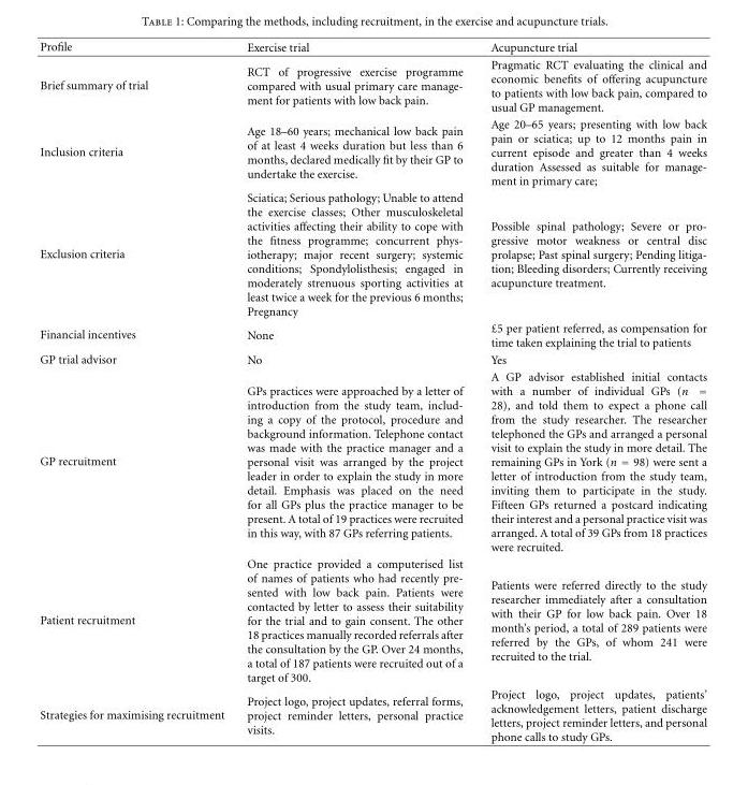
<table><thead><tr><td>Profile</td><td>Exercise trial</td><td>Acupuncture trial</td></tr></thead><tbody><tr><td>Brief summary of trial</td><td>RCT of progressive exercise programme compared with usual primary care manage- ment for patients with low back pain.</td><td>Pragmatic RCT evaluating the clinical and economic benefits of offering acupuncture to patients with low back pain, compared to usual GP management.</td></tr><tr><td>Inclusion criteria</td><td>Age 18–60 years; mechanical low back pain of at least 4 weeks duration but less than 6 months, declared medically fit by their GP to undertake the exercise.</td><td>Age 20–65 years; presenting with low back pain or sciatica; up to 12 months pain in current episode and greater than 4 weeks duration Assessed as suitable for manage- ment in primary care;</td></tr><tr><td>Exclusion criteria</td><td>Sciatica; Serious pathology; Unable to attend the exercise classes; Other musculoskeletal activities affecting their ability to cope with the fitness programme; concurrent phys- iotherapy; major recent surgery; systemic conditions; Spondylolisthesis; engaged in moderately strenuous sporting activities at least twice a week for the previous 6 months; Pregnancy</td><td>Possible spinal pathology; Severe or pro- gressive motor weakness or central disc prolapse; Past spinal surgery; Pending litiga- tion; Bleeding disorders; Currently receiving acupuncture treatment.</td></tr><tr><td>Financial incentives</td><td>None</td><td>£5 per patient referred, as compensation for time taken explaining the trial to patients</td></tr><tr><td>GP trial advisor</td><td>No</td><td>Yes</td></tr><tr><td>GP recruitment</td><td>GPs practices were approached by a letter of introduction from the study team, includ- ing a copy of the protocol, procedure and background information. Telephone contact was made with the practice manager and a personal visit was arranged by the project leader in order to explain the study in more detail. Emphasis was placed on the need for all GPs plus the practice manager to be present. A total of 19 practices were recruited in this way, with 87 GPs referring patients.</td><td>A GP advisor established initial contacts with a number of individual GPs (n = 28), and told them to expect a phone call from the study researcher. The researcher telephoned the GPs and arranged a personal visit to explain the study in more detail. The remaining GPs in York (n = 98) were sent a letter of introduction from the study team, inviting them to participate in the study. Fifteen GPs returned a postcard indicating their interest and a personal practice visit was arranged. A total of 39 GPs from 18 practices were recruited.</td></tr><tr><td>Patient recruitment</td><td>One practice provided a computerised list of names of patients who had recently pre- sented with low back pain. Patients were contacted by letter to assess their suitability for the trial and to gain consent. The other 18 practices manually recorded referrals after the consultation by the GP. Over 24 months, a total of 187 patients were recruited out of a target of 300.</td><td>Patients were referred directly to the study researcher immediately after a consultation with their GP for low back pain. Over 18 month’s period, a total of 289 patients were referred by the GPs, of whom 241 were recruited to the trial.</td></tr><tr><td>Strategies for maximising recruitment</td><td>Project logo, project updates, referral forms, project reminder letters, personal practice visits.</td><td>Project logo, project updates, patients’ acknowledgement letters, patient discharge letters, project reminder letters, and personal phone calls to study GPs.</td></tr></tbody></table>